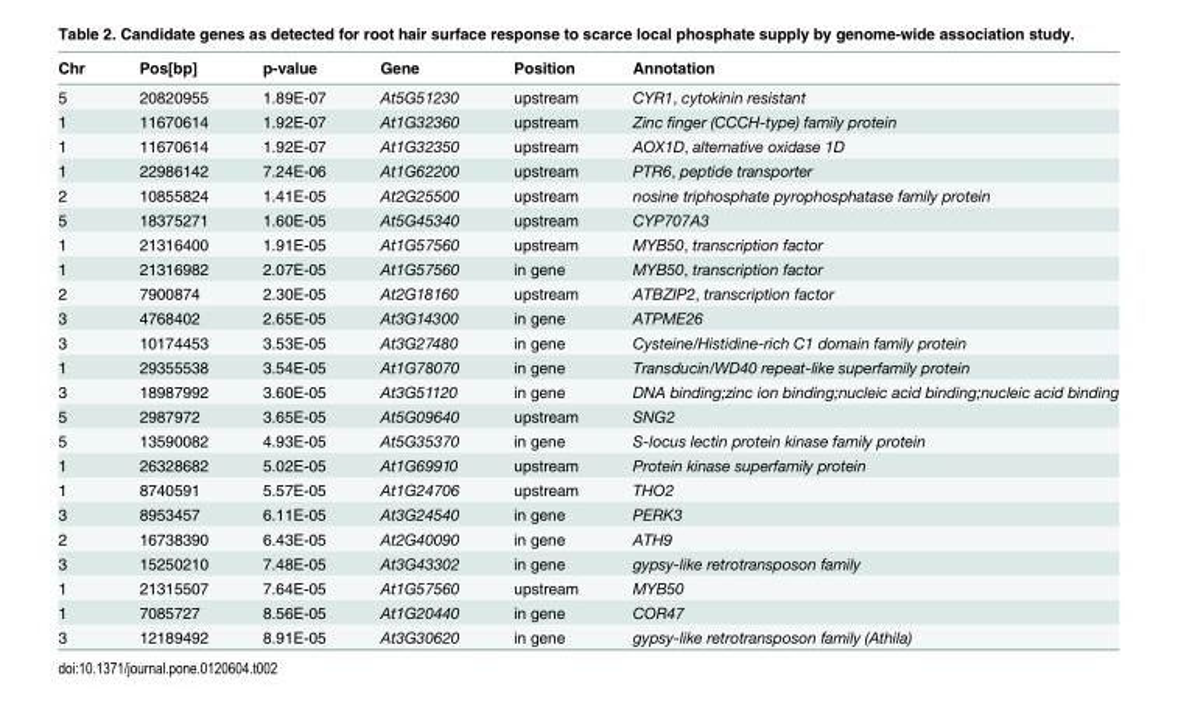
<table><thead><tr><td>Chr</td><td>Pos[bp]</td><td>p-value</td><td>Gene</td><td>Position</td><td>Annotation</td></tr></thead><tbody><tr><td>5</td><td>20820955</td><td>1.89E-07</td><td>At5G51230</td><td>upstream</td><td>CYR1, cytokinin resistant</td></tr><tr><td>1</td><td>11670614</td><td>1.92E-07</td><td>At1G32360</td><td>upstream</td><td>Zinc finger (CCCH-type) family protein</td></tr><tr><td>1</td><td>11670614</td><td>1.92E-07</td><td>At1G32350</td><td>upstream</td><td>AOX1D, alternative oxidase 1D</td></tr><tr><td>1</td><td>22986142</td><td>7.24E-06</td><td>At1G62200</td><td>upstream</td><td>PTR6, peptide transporter</td></tr><tr><td>2</td><td>10855824</td><td>1.41E-05</td><td>At2G25500</td><td>upstream</td><td>nosine triphosphate pyrophosphatase family protein</td></tr><tr><td>5</td><td>18375271</td><td>1.60E-05</td><td>At5G45340</td><td>upstream</td><td>CYP707A3</td></tr><tr><td>1</td><td>21316400</td><td>1.91E-05</td><td>At1G57560</td><td>upstream</td><td>MYB50, transcription factor</td></tr><tr><td>1</td><td>21316982</td><td>2.07E-05</td><td>At1G57560</td><td>in gene</td><td>MYB50, transcription factor</td></tr><tr><td>2</td><td>7900874</td><td>2.30E-05</td><td>At2G18160</td><td>upstream</td><td>ATBZIP2, transcription factor</td></tr><tr><td>3</td><td>4768402</td><td>2.65E-05</td><td>At3G14300</td><td>in gene</td><td>ATPME26</td></tr><tr><td>3</td><td>10174453</td><td>3.53E-05</td><td>At3G27480</td><td>in gene</td><td>Cysteine/Histidine-rich C1 domain family protein</td></tr><tr><td>1</td><td>29355538</td><td>3.54E-05</td><td>At1G78070</td><td>in gene</td><td>Transducin/WD40 repeat-like superfamily protein</td></tr><tr><td>3</td><td>18987992</td><td>3.60E-05</td><td>At3G51120</td><td>in gene</td><td>DNA binding;zinc ion binding;nucleic acid binding;nucleic acid binding</td></tr><tr><td>5</td><td>2987972</td><td>3.65E-05</td><td>At5G09640</td><td>upstream</td><td>SNG2</td></tr><tr><td>5</td><td>13590082</td><td>4.93E-05</td><td>At5G35370</td><td>in gene</td><td>S-locus lectin protein kinase family protein</td></tr><tr><td>1</td><td>26328682</td><td>5.02E-05</td><td>At1G69910</td><td>upstream</td><td>Protein kinase superfamily protein</td></tr><tr><td>1</td><td>8740591</td><td>5.57E-05</td><td>At1G24706</td><td>upstream</td><td>THO2</td></tr><tr><td>3</td><td>8953457</td><td>6.11E-05</td><td>At3G24540</td><td>in gene</td><td>PERK3</td></tr><tr><td>2</td><td>16738390</td><td>6.43E-05</td><td>At2G40090</td><td>in gene</td><td>ATH9</td></tr><tr><td>3</td><td>15250210</td><td>7.48E-05</td><td>At3G43302</td><td>in gene</td><td>gypsy-like retrotransposon family</td></tr><tr><td>1</td><td>21315507</td><td>7.64E-05</td><td>At1G57560</td><td>upstream</td><td>MYB50</td></tr><tr><td>1</td><td>7085727</td><td>8.56E-05</td><td>At1G20440</td><td>in gene</td><td>COR47</td></tr><tr><td>3</td><td>12189492</td><td>8.91E-05</td><td>At3G30620</td><td>in gene</td><td>gypsy-like retrotransposon family (Athila)</td></tr></tbody></table>